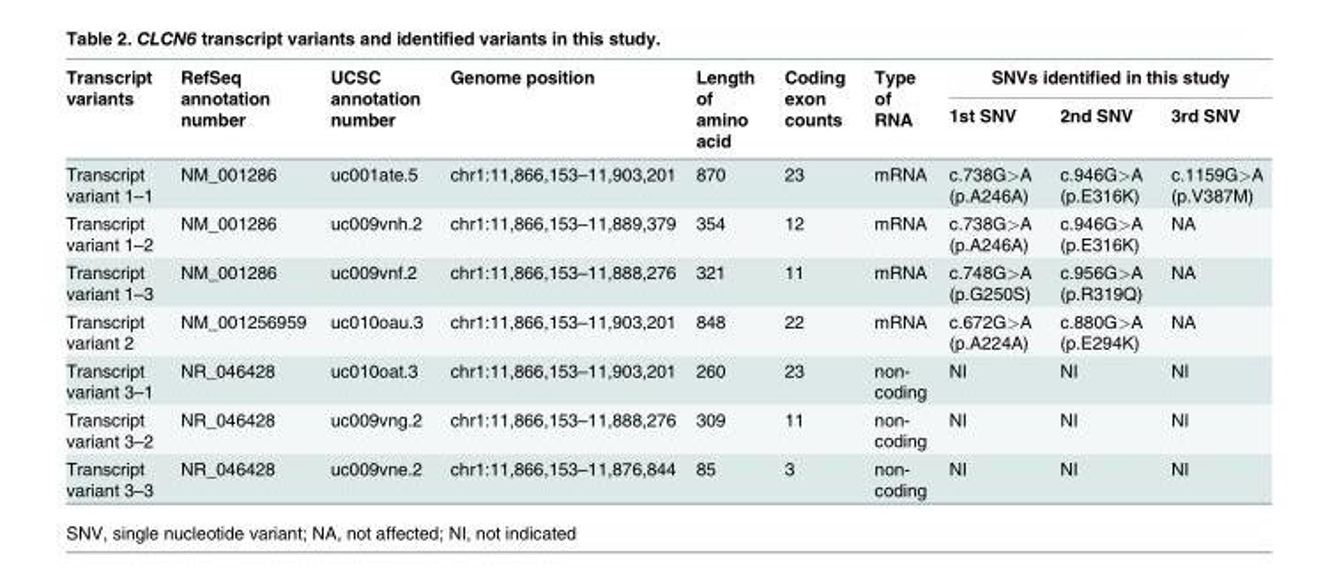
<table><thead><tr><td rowspan="2">Transcript variants</td><td rowspan="2">RefSeq annotation number</td><td rowspan="2">UCSC annotation number</td><td rowspan="2">Genome position</td><td rowspan="2">Length of amino acid</td><td rowspan="2">Coding exon counts</td><td rowspan="2">Type of RNA</td><td colspan="3">SNVs identified in this study</td></tr><tr><td>1st SNV</td><td>2nd SNV</td><td>3rd SNV</td></tr></thead><tbody><tr><td>Transcript variant 1–1</td><td>NM_001286</td><td>uc001ate.5</td><td>chr1:11,866,153–11,903,201</td><td>870</td><td>23</td><td>mRNA</td><td>c.738G&gt;A (p.A246A)</td><td>c.946G&gt;A (p.E316K)</td><td>c.1159G&gt;A (p.V387M)</td></tr><tr><td>Transcript variant 1–2</td><td>NM_001286</td><td>uc009vnh.2</td><td>chr1:11,866,153–11,889,379</td><td>354</td><td>12</td><td>mRNA</td><td>c.738G&gt;A (p.A246A)</td><td>c.946G&gt;A (p.E316K)</td><td>NA</td></tr><tr><td>Transcript variant 1–3</td><td>NM_001286</td><td>uc009vnf.2</td><td>chr1:11,866,153–11,888,276</td><td>321</td><td>11</td><td>mRNA</td><td>c.748G&gt;A (p.G250S)</td><td>c.956G&gt;A (p.R319Q)</td><td>NA</td></tr><tr><td>Transcript variant 2</td><td>NM_001256959</td><td>uc010oau.3</td><td>chr1:11,866,153–11,903,201</td><td>848</td><td>22</td><td>mRNA</td><td>c.672G&gt;A (p.A224A)</td><td>c.880G&gt;A (p.E294K)</td><td>NA</td></tr><tr><td>Transcript variant 3–1</td><td>NR_046428</td><td>uc010oat.3</td><td>chr1:11,866,153–11,903,201</td><td>260</td><td>23</td><td>non- coding</td><td>NI</td><td>NI</td><td>NI</td></tr><tr><td>Transcript variant 3–2</td><td>NR_046428</td><td>uc009vng.2</td><td>chr1:11,866,153–11,888,276</td><td>309</td><td>11</td><td>non- coding</td><td>NI</td><td>NI</td><td>NI</td></tr><tr><td>Transcript variant 3–3</td><td>NR_046428</td><td>uc009vne.2</td><td>chr1:11,866,153–11,876,844</td><td>85</td><td>3</td><td>non- coding</td><td>NI</td><td>NI</td><td>NI</td></tr></tbody></table>